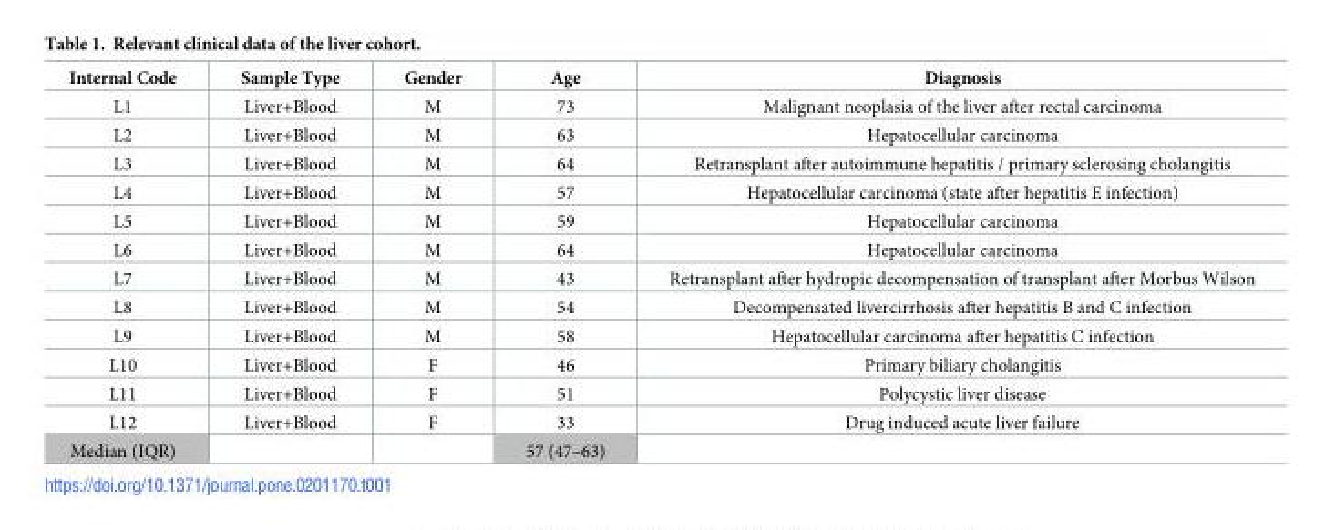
<table><thead><tr><td>Internal Code</td><td>Sample Type</td><td>Gender</td><td>Age</td><td>Diagnosis</td></tr></thead><tbody><tr><td>L1</td><td>Liver+Blood</td><td>M</td><td>73</td><td>Malignant neoplasia of the liver after rectal carcinoma</td></tr><tr><td>L2</td><td>Liver+Blood</td><td>M</td><td>63</td><td>Hepatocellular carcinoma</td></tr><tr><td>L3</td><td>Liver+Blood</td><td>M</td><td>64</td><td>Retransplant after autoimmune hepatitis / primary sclerosing cholangitis</td></tr><tr><td>L4</td><td>Liver+Blood</td><td>M</td><td>57</td><td>Hepatocellular carcinoma (state after hepatitis E infection)</td></tr><tr><td>L5</td><td>Liver+Blood</td><td>M</td><td>59</td><td>Hepatocellular carcinoma</td></tr><tr><td>L6</td><td>Liver+Blood</td><td>M</td><td>64</td><td>Hepatocellular carcinoma</td></tr><tr><td>L7</td><td>Liver+Blood</td><td>M</td><td>43</td><td>Retransplant after hydropic decompensation of transplant after Morbus Wilson</td></tr><tr><td>L8</td><td>Liver+Blood</td><td>M</td><td>54</td><td>Decompensated livercirrhosis after hepatitis B and C infection</td></tr><tr><td>L9</td><td>Liver+Blood</td><td>M</td><td>58</td><td>Hepatocellular carcinoma after hepatitis C infection</td></tr><tr><td>L10</td><td>Liver+Blood</td><td>F</td><td>46</td><td>Primary biliary cholangitis</td></tr><tr><td>L11</td><td>Liver+Blood</td><td>F</td><td>51</td><td>Polycystic liver disease</td></tr><tr><td>L12</td><td>Liver+Blood</td><td>F</td><td>33</td><td>Drug induced acute liver failure</td></tr><tr><td>Median (IQR)</td><td></td><td></td><td>57 (47–63)</td><td></td></tr></tbody></table>